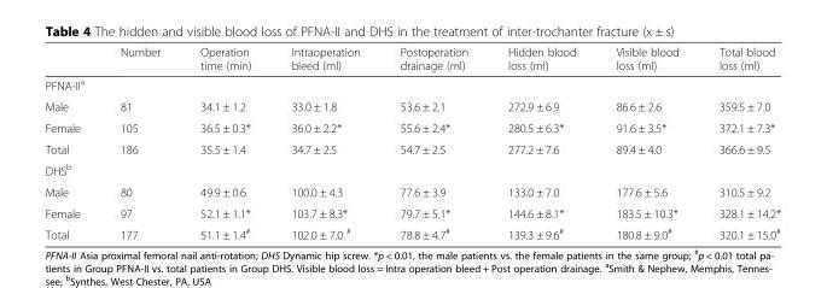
<table><thead><tr><td></td><td>Number</td><td>Operation time (min)</td><td>Intraoperation bleed (ml)</td><td>Postoperation drainage (ml)</td><td>Hidden blood loss (ml)</td><td>Visible blood loss (ml)</td><td>Total blood loss (ml)</td></tr></thead><tbody><tr><td colspan="8">PFNA-II<sup>a</sup></td></tr><tr><td>Male</td><td>81</td><td>34.1 ± 1.2</td><td>33.0 ± 1.8</td><td>53.6 ± 2.1</td><td>272.9 ± 6.9</td><td>86.6 ± 2.6</td><td>359.5 ± 7.0</td></tr><tr><td>Female</td><td>105</td><td>36.5 ± 0.3*</td><td>36.0 ± 2.2*</td><td>55.6 ± 2.4*</td><td>280.5 ± 6.3*</td><td>91.6 ± 3.5*</td><td>372.1 ± 7.3*</td></tr><tr><td>Total</td><td>186</td><td>35.5 ± 1.4</td><td>34.7 ± 2.5</td><td>54.7 ± 2.5</td><td>277.2 ± 7.6</td><td>89.4 ± 4.0</td><td>366.6 ± 9.5</td></tr><tr><td colspan="8">DHS<sup>b</sup></td></tr><tr><td>Male</td><td>80</td><td>49.9 ± 0.6</td><td>100.0 ± 4.3</td><td>77.6 ± 3.9</td><td>133.0 ± 7.0</td><td>177.6 ± 5.6</td><td>310.5 ± 9.2</td></tr><tr><td>Female</td><td>97</td><td>52.1 ± 1.1*</td><td>103.7 ± 8.3*</td><td>79.7 ± 5.1*</td><td>144.6 ± 8.1*</td><td>183.5 ± 10.3*</td><td>328.1 ± 14.2*</td></tr><tr><td>Total</td><td>177</td><td>51.1 ± 1.4<sup>#</sup></td><td>102.0 ± 7.0 <sup>#</sup></td><td>78.8 ± 4.7<sup>#</sup></td><td>139.3 ± 9.6<sup>#</sup></td><td>180.8 ± 9.0<sup>#</sup></td><td>320.1 ± 15.0<sup>#</sup></td></tr></tbody></table>